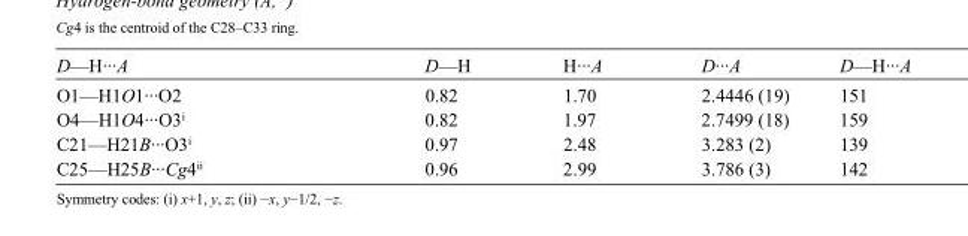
<table><tbody><tr><td>D—H···A</td><td>D—H</td><td>H···A</td><td>D···A</td><td>D—H···A</td></tr><tr><td>O1—H1O1···O2</td><td>0.82</td><td>1.70</td><td>2.4446 (19)</td><td>151</td></tr><tr><td>O4—H1O4···O3<sup>i</sup></td><td>0.82</td><td>1.97</td><td>2.7499 (18)</td><td>159</td></tr><tr><td>C21—H21B···O3<sup>i</sup></td><td>0.97</td><td>2.48</td><td>3.283 (2)</td><td>139</td></tr><tr><td>C25—H25B···Cg4<sup>ii</sup></td><td>0.96</td><td>2.99</td><td>3.786 (3)</td><td>142</td></tr></tbody></table>